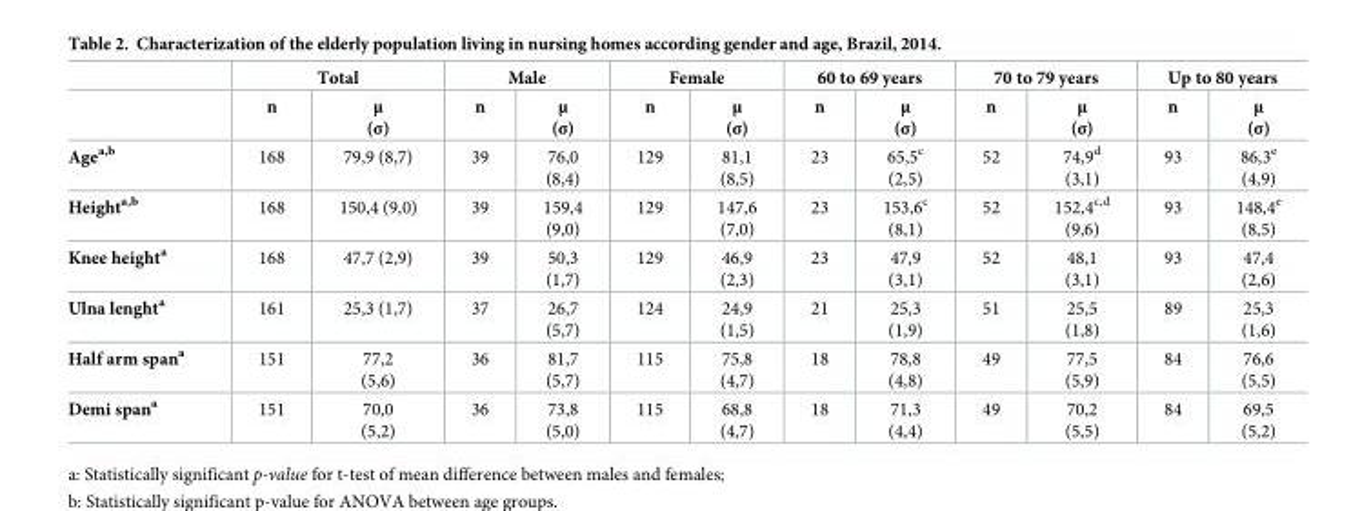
<table><thead><tr><td rowspan="2"></td><td colspan="2">Total</td><td colspan="2">Male</td><td colspan="2">Female</td><td colspan="2">60 to 69 years</td><td colspan="2">70 to 79 years</td><td colspan="2">Up to 80 years</td></tr><tr><td>n</td><td>μ (σ)</td><td>n</td><td>μ (σ)</td><td>n</td><td>μ (σ)</td><td>n</td><td>μ (σ)</td><td>n</td><td>μ (σ)</td><td>n</td><td>μ (σ)</td></tr></thead><tbody><tr><td>Age<sup>a,b</sup></td><td>168</td><td>79,9 (8,7)</td><td>39</td><td>76,0 (8,4)</td><td>129</td><td>81,1 (8,5)</td><td>23</td><td>65,5<sup>c</sup> (2,5)</td><td>52</td><td>74,9<sup>d</sup> (3,1)</td><td>93</td><td>86,3<sup>e</sup> (4,9)</td></tr><tr><td>Height<sup>a,b</sup></td><td>168</td><td>150,4 (9,0)</td><td>39</td><td>159,4 (9,0)</td><td>129</td><td>147,6 (7,0)</td><td>23</td><td>153,6<sup>c</sup> (8,1)</td><td>52</td><td>152,4<sup>c,d</sup> (9,6)</td><td>93</td><td>148,4<sup>e</sup> (8,5)</td></tr><tr><td>Knee height<sup>a</sup></td><td>168</td><td>47,7 (2,9)</td><td>39</td><td>50,3 (1,7)</td><td>129</td><td>46,9 (2,3)</td><td>23</td><td>47,9 (3,1)</td><td>52</td><td>48,1 (3,1)</td><td>93</td><td>47,4 (2,6)</td></tr><tr><td>Ulna lenght<sup>a</sup></td><td>161</td><td>25,3 (1,7)</td><td>37</td><td>26,7 (5,7)</td><td>124</td><td>24,9 (1,5)</td><td>21</td><td>25,3 (1,9)</td><td>51</td><td>25,5 (1,8)</td><td>89</td><td>25,3 (1,6)</td></tr><tr><td>Half arm span<sup>a</sup></td><td>151</td><td>77,2 (5,6)</td><td>36</td><td>81,7 (5,7)</td><td>115</td><td>75,8 (4,7)</td><td>18</td><td>78,8 (4,8)</td><td>49</td><td>77,5 (5,9)</td><td>84</td><td>76,6 (5,5)</td></tr><tr><td>Demi span<sup>a</sup></td><td>151</td><td>70,0 (5,2)</td><td>36</td><td>73,8 (5,0)</td><td>115</td><td>68,8 (4,7)</td><td>18</td><td>71,3 (4,4)</td><td>49</td><td>70,2 (5,5)</td><td>84</td><td>69,5 (5,2)</td></tr></tbody></table>